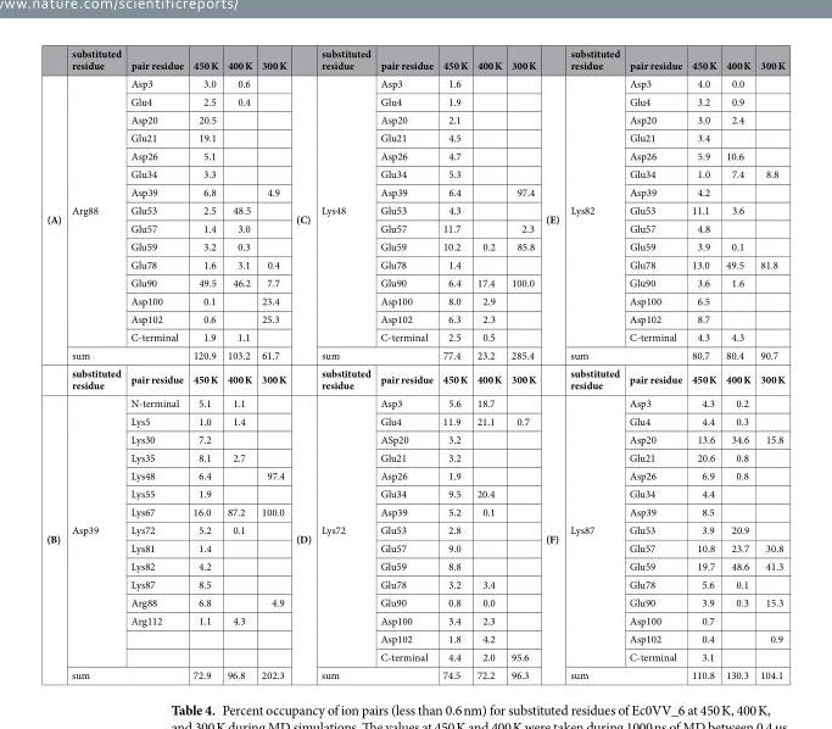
<table><thead><tr><td></td><td>substituted residue</td><td>pair residue</td><td>450 K</td><td>400 K</td><td>300 K</td><td></td><td>substituted residue</td><td>pair residue</td><td>450 K</td><td>400 K</td><td>300 K</td><td></td><td>substituted residue</td><td>pair residue</td><td>450 K</td><td>400 K</td><td>300 K</td></tr></thead><tbody><tr><td rowspan="17">(A)</td><td rowspan="15">Arg88</td><td>Asp3</td><td>3.0</td><td>0.6</td><td></td><td rowspan="16">(C)</td><td rowspan="15">Lys48</td><td>Asp3</td><td>1.6</td><td></td><td></td><td rowspan="16">(E)</td><td rowspan="15">Lys82</td><td>Asp3</td><td>4.0</td><td>0.0</td><td></td></tr><tr><td>Glu4</td><td>2.5</td><td>0.4</td><td></td><td>Glu4</td><td>1.9</td><td></td><td></td><td>Glu4</td><td>3.2</td><td>0.9</td><td></td></tr><tr><td>Asp20</td><td>20.5</td><td></td><td></td><td>Asp20</td><td>2.1</td><td></td><td></td><td>Asp20</td><td>3.0</td><td>2.4</td><td></td></tr><tr><td>Glu21</td><td>19.1</td><td></td><td></td><td>Glu21</td><td>4.5</td><td></td><td></td><td>Glu21</td><td>3.4</td><td></td><td></td></tr><tr><td>Asp26</td><td>5.1</td><td></td><td></td><td>Asp26</td><td>4.7</td><td></td><td></td><td>Asp26</td><td>5.9</td><td>10.6</td><td></td></tr><tr><td>Glu34</td><td>3.3</td><td></td><td></td><td>Glu34</td><td>5.3</td><td></td><td></td><td>Glu34</td><td>1.0</td><td>7.4</td><td>8.8</td></tr><tr><td>Asp39</td><td>6.8</td><td></td><td>4.9</td><td>Asp39</td><td>6.4</td><td></td><td>97.4</td><td>Asp39</td><td>4.2</td><td></td><td></td></tr><tr><td>Glu53</td><td>2.5</td><td>48.5</td><td></td><td>Glu53</td><td>4.3</td><td></td><td></td><td>Glu53</td><td>11.1</td><td>3.6</td><td></td></tr><tr><td>Glu57</td><td>1.4</td><td>3.0</td><td></td><td>Glu57</td><td>11.7</td><td></td><td>2.3</td><td>Glu57</td><td>4.8</td><td></td><td></td></tr><tr><td>Glu59</td><td>3.2</td><td>0.3</td><td></td><td>Glu59</td><td>10.2</td><td>0.2</td><td>85.8</td><td>Glu59</td><td>3.9</td><td>0.1</td><td></td></tr><tr><td>Glu78</td><td>1.6</td><td>3.1</td><td>0.4</td><td>Glu78</td><td>1.4</td><td></td><td></td><td>Glu78</td><td>13.0</td><td>49.5</td><td>81.8</td></tr><tr><td>Glu90</td><td>49.5</td><td>46.2</td><td>7.7</td><td>Glu90</td><td>6.4</td><td>17.4</td><td>100.0</td><td>Glu90</td><td>3.6</td><td>1.6</td><td></td></tr><tr><td>Asp100</td><td>0.1</td><td></td><td>23.4</td><td>Asp100</td><td>8.0</td><td>2.9</td><td></td><td>Asp100</td><td>6.5</td><td></td><td></td></tr><tr><td>Asp102</td><td>0.6</td><td></td><td>25.3</td><td>Asp102</td><td>6.3</td><td>2.3</td><td></td><td>Asp102</td><td>8.7</td><td></td><td></td></tr><tr><td>C-terminal</td><td>1.9</td><td>1.1</td><td></td><td>C-terminal</td><td>2.5</td><td>0.5</td><td></td><td>C-terminal</td><td>4.3</td><td>4.3</td><td></td></tr><tr><td colspan="2">sum</td><td>120.9</td><td>103.2</td><td>61.7</td><td colspan="2">sum</td><td>77.4</td><td>23.2</td><td>285.4</td><td colspan="2">sum</td><td>80.7</td><td>80.4</td><td>90.7</td></tr><tr><td>substituted residue</td><td>pair residue</td><td>450 K</td><td>400 K</td><td>300 K</td><td></td><td>substituted residue</td><td>pair residue</td><td>450 K</td><td>400 K</td><td>300 K</td><td></td><td>substituted residue</td><td>pair residue</td><td>450 K</td><td>400 K</td><td>300 K</td></tr><tr><td rowspan="16">(B)</td><td rowspan="15">Asp39</td><td>N-terminal</td><td>5.1</td><td>1.1</td><td></td><td rowspan="16">(D)</td><td rowspan="15">Lys72</td><td>Asp3</td><td>5.6</td><td>18.7</td><td></td><td rowspan="16">(F)</td><td rowspan="15">Lys87</td><td>Asp3</td><td>4.3</td><td>0.2</td><td></td></tr><tr><td>Lys5</td><td>1.0</td><td>1.4</td><td></td><td>Glu4</td><td>11.9</td><td>21.1</td><td>0.7</td><td>Glu4</td><td>4.4</td><td>0.3</td><td></td></tr><tr><td>Lys30</td><td>7.2</td><td></td><td></td><td>ASp20</td><td>3.2</td><td></td><td></td><td>Asp20</td><td>13.6</td><td>34.6</td><td>15.8</td></tr><tr><td>Lys35</td><td>8.1</td><td>2.7</td><td></td><td>Glu21</td><td>3.2</td><td></td><td></td><td>Glu21</td><td>20.6</td><td>0.8</td><td></td></tr><tr><td>Lys48</td><td>6.4</td><td></td><td>97.4</td><td>Asp26</td><td>1.9</td><td></td><td></td><td>Asp26</td><td>6.9</td><td>0.8</td><td></td></tr><tr><td>Lys55</td><td>1.9</td><td></td><td></td><td>Glu34</td><td>9.5</td><td>20.4</td><td></td><td>Glu34</td><td>4.4</td><td></td><td></td></tr><tr><td>Lys67</td><td>16.0</td><td>87.2</td><td>100.0</td><td>Asp39</td><td>5.2</td><td>0.1</td><td></td><td>Asp39</td><td>8.5</td><td></td><td></td></tr><tr><td>Lys72</td><td>5.2</td><td>0.1</td><td></td><td>Glu53</td><td>2.8</td><td></td><td></td><td>Glu53</td><td>3.9</td><td>20.9</td><td></td></tr><tr><td>Lys81</td><td>1.4</td><td></td><td></td><td>Glu57</td><td>9.0</td><td></td><td></td><td>Glu57</td><td>10.8</td><td>23.7</td><td>30.8</td></tr><tr><td>Lys82</td><td>4.2</td><td></td><td></td><td>Glu59</td><td>8.8</td><td></td><td></td><td>Glu59</td><td>19.7</td><td>48.6</td><td>41.3</td></tr><tr><td>Lys87</td><td>8.5</td><td></td><td></td><td>Glu78</td><td>3.2</td><td>3.4</td><td></td><td>Glu78</td><td>5.6</td><td>0.1</td><td></td></tr><tr><td>Arg88</td><td>6.8</td><td></td><td>4.9</td><td>Glu90</td><td>0.8</td><td>0.0</td><td></td><td>Glu90</td><td>3.9</td><td>0.3</td><td>15.3</td></tr><tr><td>Arg112</td><td>1.1</td><td>4.3</td><td></td><td>Asp100</td><td>3.4</td><td>2.3</td><td></td><td>Asp100</td><td>0.7</td><td></td><td></td></tr><tr><td></td><td></td><td></td><td></td><td>Asp102</td><td>1.8</td><td>4.2</td><td></td><td>Asp102</td><td>0.4</td><td></td><td>0.9</td></tr><tr><td></td><td></td><td></td><td></td><td>C-terminal</td><td>4.4</td><td>2.0</td><td>95.6</td><td>C-terminal</td><td>3.1</td><td></td><td></td></tr><tr><td colspan="2">sum</td><td>72.9</td><td>96.8</td><td>202.3</td><td colspan="2">sum</td><td>74.5</td><td>72.2</td><td>96.3</td><td colspan="2">sum</td><td>110.8</td><td>130.3</td><td>104.1</td></tr></tbody></table>